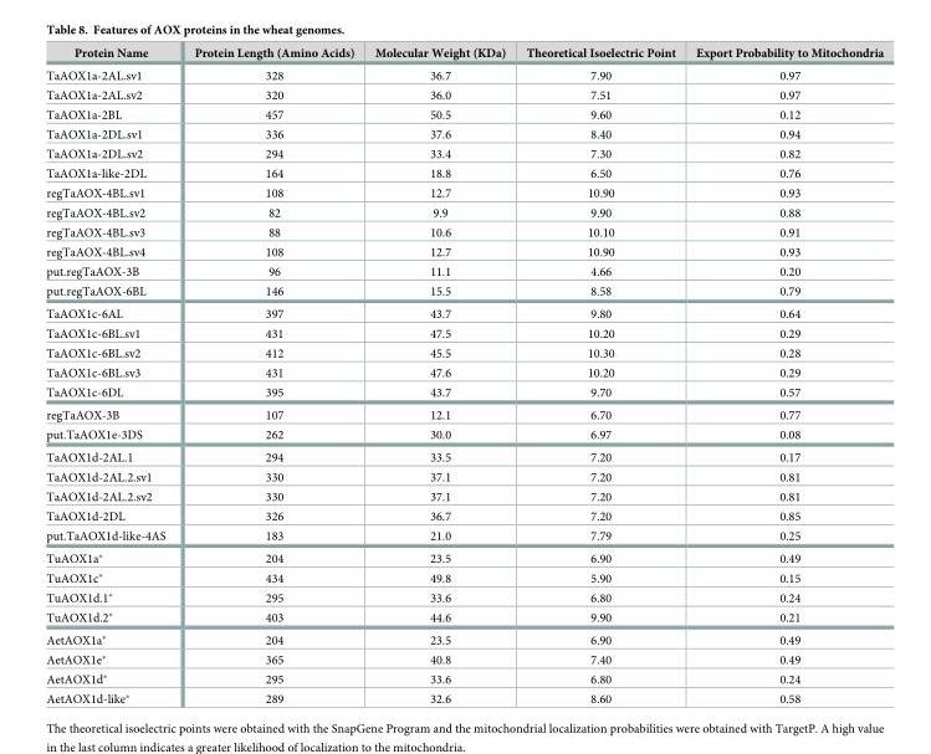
<table><thead><tr><td>Protein Name</td><td>Protein Length (Amino Acids)</td><td>Molecular Weight (KDa)</td><td>Theoretical Isoelectric Point</td><td>Export Probability to Mitochondria</td></tr></thead><tbody><tr><td>TaAOX1a-2AL.sv1</td><td>328</td><td>36.7</td><td>7.90</td><td>0.97</td></tr><tr><td>TaAOX1a-2AL.sv2</td><td>320</td><td>36.0</td><td>7.51</td><td>0.97</td></tr><tr><td>TaAOX1a-2BL</td><td>457</td><td>50.5</td><td>9.60</td><td>0.12</td></tr><tr><td>TaAOX1a-2DL.sv1</td><td>336</td><td>37.6</td><td>8.40</td><td>0.94</td></tr><tr><td>TaAOX1a-2DL.sv2</td><td>294</td><td>33.4</td><td>7.30</td><td>0.82</td></tr><tr><td>TaAOX1a-like-2DL</td><td>164</td><td>18.8</td><td>6.50</td><td>0.76</td></tr><tr><td>regTaAOX-4BL.sv1</td><td>108</td><td>12.7</td><td>10.90</td><td>0.93</td></tr><tr><td>regTaAOX-4BL.sv2</td><td>82</td><td>9.9</td><td>9.90</td><td>0.88</td></tr><tr><td>regTaAOX-4BL.sv3</td><td>88</td><td>10.6</td><td>10.10</td><td>0.91</td></tr><tr><td>regTaAOX-4BL.sv4</td><td>108</td><td>12.7</td><td>10.90</td><td>0.93</td></tr><tr><td>put.regTaAOX-3B</td><td>96</td><td>11.1</td><td>4.66</td><td>0.20</td></tr><tr><td>put.regTaAOX-6BL</td><td>146</td><td>15.5</td><td>8.58</td><td>0.79</td></tr><tr><td>TaAOX1c-6AL</td><td>397</td><td>43.7</td><td>9.80</td><td>0.64</td></tr><tr><td>TaAOX1c-6BL.sv1</td><td>431</td><td>47.5</td><td>10.20</td><td>0.29</td></tr><tr><td>TaAOX1c-6BL.sv2</td><td>412</td><td>45.5</td><td>10.30</td><td>0.28</td></tr><tr><td>TaAOX1c-6BL.sv3</td><td>431</td><td>47.6</td><td>10.20</td><td>0.29</td></tr><tr><td>TaAOX1c-6DL</td><td>395</td><td>43.7</td><td>9.70</td><td>0.57</td></tr><tr><td>regTaAOX-3B</td><td>107</td><td>12.1</td><td>6.70</td><td>0.77</td></tr><tr><td>put.TaAOX1e-3DS</td><td>262</td><td>30.0</td><td>6.97</td><td>0.08</td></tr><tr><td>TaAOX1d-2AL.1</td><td>294</td><td>33.5</td><td>7.20</td><td>0.17</td></tr><tr><td>TaAOX1d-2AL.2.sv1</td><td>330</td><td>37.1</td><td>7.20</td><td>0.81</td></tr><tr><td>TaAOX1d-2AL.2.sv2</td><td>330</td><td>37.1</td><td>7.20</td><td>0.81</td></tr><tr><td>TaAOX1d-2DL</td><td>326</td><td>36.7</td><td>7.20</td><td>0.85</td></tr><tr><td>put.TaAOX1d-like-4AS</td><td>183</td><td>21.0</td><td>7.79</td><td>0.25</td></tr><tr><td>TuAOX1a*</td><td>204</td><td>23.5</td><td>6.90</td><td>0.49</td></tr><tr><td>TuAOX1c*</td><td>434</td><td>49.8</td><td>5.90</td><td>0.15</td></tr><tr><td>TuAOX1d.1*</td><td>295</td><td>33.6</td><td>6.80</td><td>0.24</td></tr><tr><td>TuAOX1d.2*</td><td>403</td><td>44.6</td><td>9.90</td><td>0.21</td></tr><tr><td>AetAOX1a*</td><td>204</td><td>23.5</td><td>6.90</td><td>0.49</td></tr><tr><td>AetAOX1e*</td><td>365</td><td>40.8</td><td>7.40</td><td>0.49</td></tr><tr><td>AetAOX1d*</td><td>295</td><td>33.6</td><td>6.80</td><td>0.24</td></tr><tr><td>AetAOX1d-like*</td><td>289</td><td>32.6</td><td>8.60</td><td>0.58</td></tr></tbody></table>